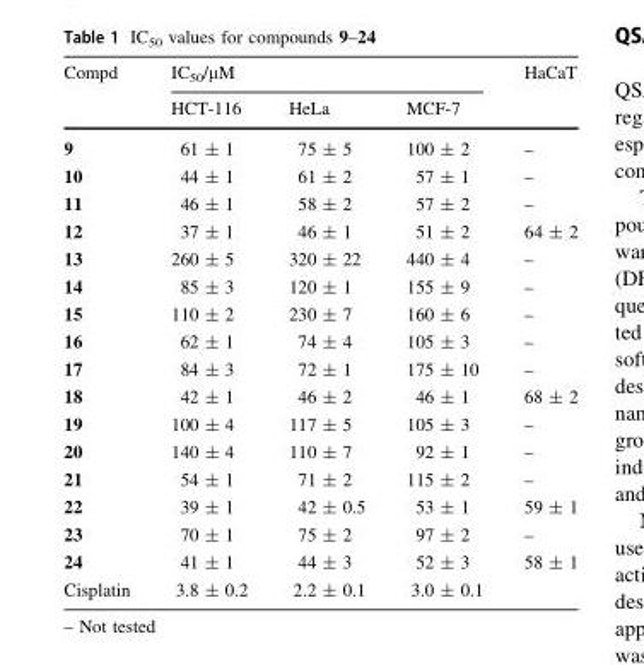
<table><thead><tr><td rowspan="2">Compd</td><td colspan="3">IC<sub>50</sub>/µM</td><td rowspan="2">HaCaT</td></tr><tr><td>HCT-116</td><td>HeLa</td><td>MCF-7</td></tr></thead><tbody><tr><td>9</td><td>61 ± 1</td><td>75 ± 5</td><td>100 ± 2</td><td>–</td></tr><tr><td>10</td><td>44 ± 1</td><td>61 ± 2</td><td>57 ± 1</td><td>–</td></tr><tr><td>11</td><td>46 ± 1</td><td>58 ± 2</td><td>57 ± 2</td><td>–</td></tr><tr><td>12</td><td>37 ± 1</td><td>46 ± 1</td><td>51 ± 2</td><td>64 ± 2</td></tr><tr><td>13</td><td>260 ± 5</td><td>320 ± 22</td><td>440 ± 4</td><td>–</td></tr><tr><td>14</td><td>85 ± 3</td><td>120 ± 1</td><td>155 ± 9</td><td>–</td></tr><tr><td>15</td><td>110 ± 2</td><td>230 ± 7</td><td>160 ± 6</td><td>–</td></tr><tr><td>16</td><td>62 ± 1</td><td>74 ± 4</td><td>105 ± 3</td><td>–</td></tr><tr><td>17</td><td>84 ± 3</td><td>72 ± 1</td><td>175 ± 10</td><td>–</td></tr><tr><td>18</td><td>42 ± 1</td><td>46 ± 2</td><td>46 ± 1</td><td>68 ± 2</td></tr><tr><td>19</td><td>100 ± 4</td><td>117 ± 5</td><td>105 ± 3</td><td>–</td></tr><tr><td>20</td><td>140 ± 4</td><td>110 ± 7</td><td>92 ± 1</td><td>–</td></tr><tr><td>21</td><td>54 ± 1</td><td>71 ± 2</td><td>115 ± 2</td><td>–</td></tr><tr><td>22</td><td>39 ± 1</td><td>42 ± 0.5</td><td>53 ± 1</td><td>59 ± 1</td></tr><tr><td>23</td><td>70 ± 1</td><td>75 ± 2</td><td>97 ± 2</td><td>–</td></tr><tr><td>24</td><td>41 ± 1</td><td>44 ± 3</td><td>52 ± 3</td><td>58 ± 1</td></tr><tr><td>Cisplatin</td><td>3.8 ± 0.2</td><td>2.2 ± 0.1</td><td>3.0 ± 0.1</td><td></td></tr></tbody></table>